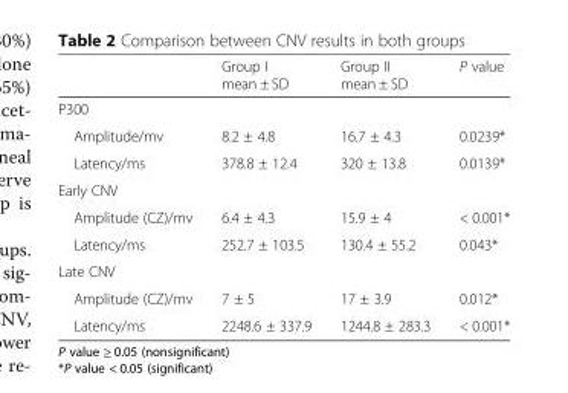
<table><thead><tr><td></td><td>Group I mean ± SD</td><td>Group II mean ± SD</td><td>P value</td></tr></thead><tbody><tr><td colspan="4">P300</td></tr><tr><td>Amplitude/mv</td><td>8.2 ± 4.8</td><td>16.7 ± 4.3</td><td>0.0239*</td></tr><tr><td>Latency/ms</td><td>378.8 ± 12.4</td><td>320 ± 13.8</td><td>0.0139*</td></tr><tr><td colspan="4">Early CNV</td></tr><tr><td>Amplitude (CZ)/mv</td><td>6.4 ± 4.3</td><td>15.9 ± 4</td><td>&lt; 0.001*</td></tr><tr><td>Latency/ms</td><td>252.7 ± 103.5</td><td>130.4 ± 55.2</td><td>0.043*</td></tr><tr><td colspan="4">Late CNV</td></tr><tr><td>Amplitude (CZ)/mv</td><td>7 ± 5</td><td>17 ± 3.9</td><td>0.012*</td></tr><tr><td>Latency/ms</td><td>2248.6 ± 337.9</td><td>1244.8 ± 283.3</td><td>&lt; 0.001*</td></tr></tbody></table>